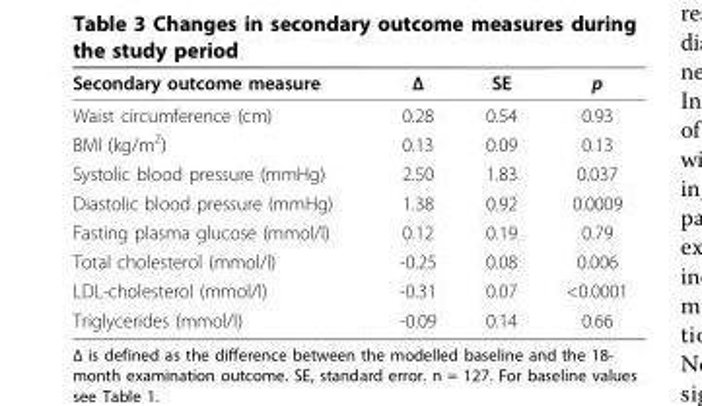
<table><thead><tr><td>Secondary outcome measure</td><td>Δ</td><td>SE</td><td>p</td></tr></thead><tbody><tr><td>Waist circumference (cm)</td><td>0.28</td><td>0.54</td><td>0.93</td></tr><tr><td>BMI (kg/m<sup>2</sup>)</td><td>0.13</td><td>0.09</td><td>0.13</td></tr><tr><td>Systolic blood pressure (mmHg)</td><td>2.50</td><td>1.83</td><td>0.037</td></tr><tr><td>Diastolic blood pressure (mmHg)</td><td>1.38</td><td>0.92</td><td>0.0009</td></tr><tr><td>Fasting plasma glucose (mmol/l)</td><td>0.12</td><td>0.19</td><td>0.79</td></tr><tr><td>Total cholesterol (mmol/l)</td><td>-0.25</td><td>0.08</td><td>0.006</td></tr><tr><td>LDL-cholesterol (mmol/l)</td><td>-0.31</td><td>0.07</td><td>&lt;0.0001</td></tr><tr><td>Triglycerides (mmol/l)</td><td>-0.09</td><td>0.14</td><td>0.66</td></tr></tbody></table>